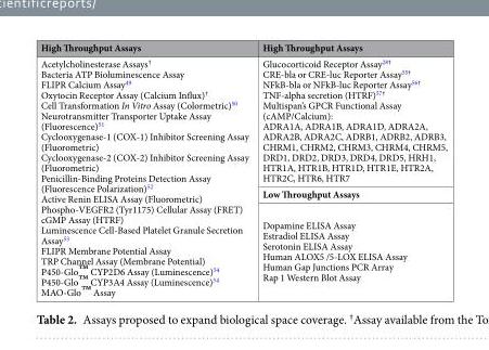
<table><thead><tr><td>High Throughput Assays</td><td>High Throughput Assays</td></tr></thead><tbody><tr><td rowspan="3">Acetylcholinesterase Assays<sup>†</sup> Bacteria ATP Bioluminescence Assay FLIPR Calcium Assay<sup>49</sup> Oxytocin Receptor Assay (Calcium Influx)<sup>†</sup> Cell Transformation In Vitro Assay (Colormetric)<sup>50</sup> Neurotransmitter Transporter Uptake Assay (Fluorescence)<sup>51</sup> Cyclooxygenase-1 (COX-1) Inhibitor Screening Assay (Fluorometric) Cyclooxygenase-2 (COX-2) Inhibitor Screening Assay (Fluorometric) Penicillin-Binding Proteins Detection Assay (Fluorescence Polarization)<sup>52</sup> Active Renin ELISA Assay (Fluorometric) Phospho-VEGFR2 (Tyr1175) Cellular Assay (FRET) cGMP Assay (HTRF) Luminescence Cell-Based Platelet Granule Secretion Assay<sup>53</sup> FLIPR Membrane Potential Assay TRP Channel Assay (Membrane Potential) P450-Glo™ CYP2D6 Assay (Luminescence)<sup>54</sup> P450-Glo™ CYP3A4 Assay (Luminescence)<sup>54</sup> MAO-Glo™ Assay</td><td>Glucocorticoid Receptor Assay<sup>28†</sup> CRE-bla or CRE-luc Reporter Assay<sup>55†</sup> NFkB-bla or NFkB-luc Reporter Assay<sup>56†</sup> TNF-alpha secretion (HTRF)<sup>57†</sup> Multispan’s GPCR Functional Assay (cAMP/Calcium): ADRA1A, ADRA1B, ADRA1D, ADRA2A, ADRA2B, ADRA2C, ADRB1, ADRB2, ADRB3, CHRM1, CHRM2, CHRM3, CHRM4, CHRM5, DRD1, DRD2, DRD3, DRD4, DRD5, HRH1, HTR1A, HTR1B, HTR1D, HTR1E, HTR2A, HTR2C, HTR6, HTR7</td></tr><tr><td>Low Throughput Assays</td></tr><tr><td>Dopamine ELISA Assay Estradiol ELISA Assay Serotonin ELISA Assay Human ALOX5 /5-LOX ELISA Assay Human Gap Junctions PCR Array Rap 1 Western Blot Assay</td></tr></tbody></table>